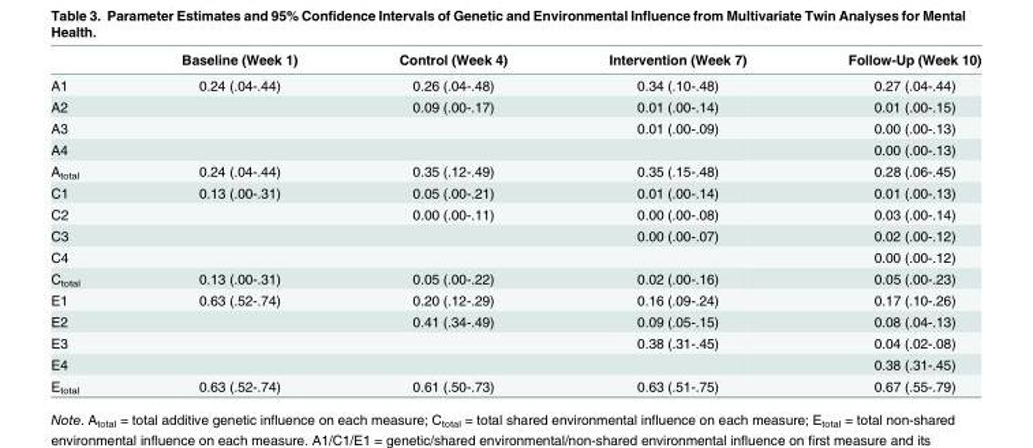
<table><thead><tr><td></td><td>Baseline (Week 1)</td><td>Control (Week 4)</td><td>Intervention (Week 7)</td><td>Follow-Up (Week 10)</td></tr></thead><tbody><tr><td>A1</td><td>0.24 (.04-.44)</td><td>0.26 (.04-.48)</td><td>0.34 (.10-.48)</td><td>0.27 (.04-.44)</td></tr><tr><td>A2</td><td></td><td>0.09 (.00-.17)</td><td>0.01 (.00-.14)</td><td>0.01 (.00-.15)</td></tr><tr><td>A3</td><td></td><td></td><td>0.01 (.00-.09)</td><td>0.00 (.00-.13)</td></tr><tr><td>A4</td><td></td><td></td><td></td><td>0.00 (.00-.13)</td></tr><tr><td>A<sub>total</sub></td><td>0.24 (.04-.44)</td><td>0.35 (.12-.49)</td><td>0.35 (.15-.48)</td><td>0.28 (.06-.45)</td></tr><tr><td>C1</td><td>0.13 (.00-.31)</td><td>0.05 (.00-.21)</td><td>0.01 (.00-.14)</td><td>0.01 (.00-.13)</td></tr><tr><td>C2</td><td></td><td>0.00 (.00-.11)</td><td>0.00 (.00-.08)</td><td>0.03 (.00-.14)</td></tr><tr><td>C3</td><td></td><td></td><td>0.00 (.00-.07)</td><td>0.02 (.00-.12)</td></tr><tr><td>C4</td><td></td><td></td><td></td><td>0.00 (.00-.12)</td></tr><tr><td>C<sub>total</sub></td><td>0.13 (.00-.31)</td><td>0.05 (.00-.22)</td><td>0.02 (.00-.16)</td><td>0.05 (.00-.23)</td></tr><tr><td>E1</td><td>0.63 (.52-.74)</td><td>0.20 (.12-.29)</td><td>0.16 (.09-.24)</td><td>0.17 (.10-.26)</td></tr><tr><td>E2</td><td></td><td>0.41 (.34-.49)</td><td>0.09 (.05-.15)</td><td>0.08 (.04-.13)</td></tr><tr><td>E3</td><td></td><td></td><td>0.38 (.31-.45)</td><td>0.04 (.02-.08)</td></tr><tr><td>E4</td><td></td><td></td><td></td><td>0.38 (.31-.45)</td></tr><tr><td>E<sub>total</sub></td><td>0.63 (.52-.74)</td><td>0.61 (.50-.73)</td><td>0.63 (.51-.75)</td><td>0.67 (.55-.79)</td></tr></tbody></table>